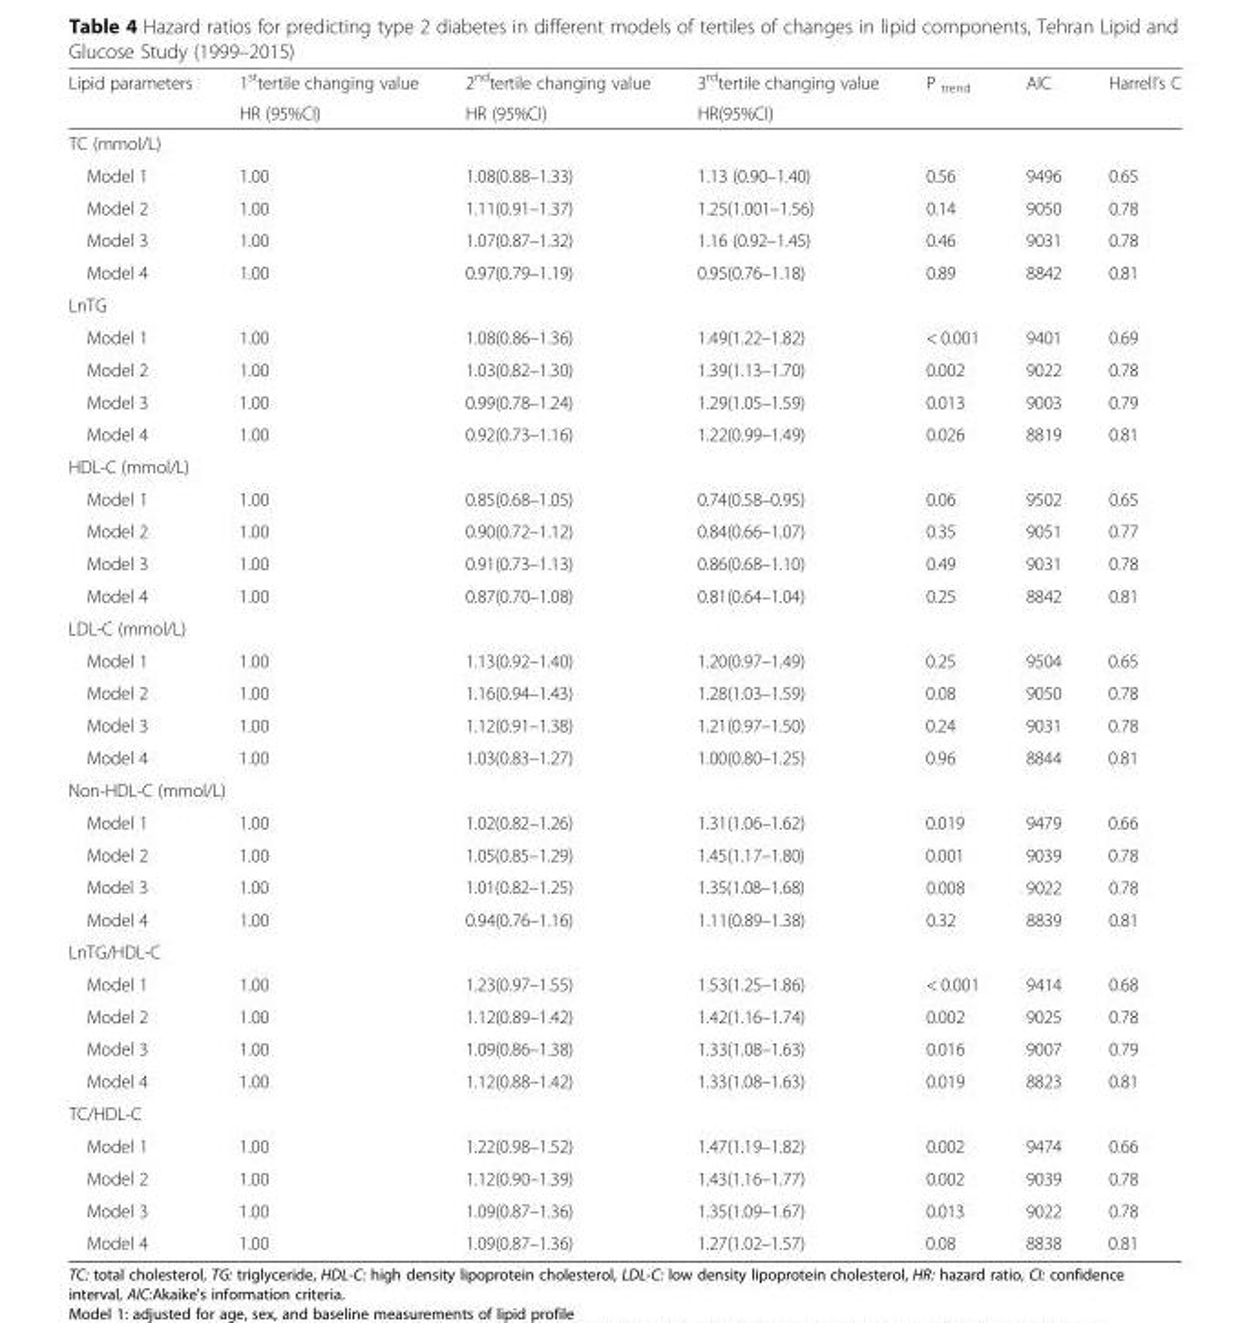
<table><thead><tr><td rowspan="2">Lipid parameters</td><td rowspan="2">1<sup>st</sup>tertile changing value HR (95%CI)</td><td rowspan="2">2<sup>nd</sup>tertile changing value HR (95%CI)</td><td rowspan="2">3<sup>rd</sup>tertile changing value HR(95%CI)</td><td rowspan="2">P <sub>trend</sub></td><td rowspan="2">AIC</td><td rowspan="2">Harrell’s C</td></tr><tr></tr></thead><tbody><tr><td colspan="7">TC (mmol/L)</td></tr><tr><td>Model 1</td><td>1.00</td><td>1.08(0.88–1.33)</td><td>1.13 (0.90–1.40)</td><td>0.56</td><td>9496</td><td>0.65</td></tr><tr><td>Model 2</td><td>1.00</td><td>1.11(0.91–1.37)</td><td>1.25(1.001–1.56)</td><td>0.14</td><td>9050</td><td>0.78</td></tr><tr><td>Model 3</td><td>1.00</td><td>1.07(0.87–1.32)</td><td>1.16 (0.92–1.45)</td><td>0.46</td><td>9031</td><td>0.78</td></tr><tr><td>Model 4</td><td>1.00</td><td>0.97(0.79–1.19)</td><td>0.95(0.76–1.18)</td><td>0.89</td><td>8842</td><td>0.81</td></tr><tr><td colspan="7">LnTG</td></tr><tr><td>Model 1</td><td>1.00</td><td>1.08(0.86–1.36)</td><td>1.49(1.22–1.82)</td><td>&lt; 0.001</td><td>9401</td><td>0.69</td></tr><tr><td>Model 2</td><td>1.00</td><td>1.03(0.82–1.30)</td><td>1.39(1.13–1.70)</td><td>0.002</td><td>9022</td><td>0.78</td></tr><tr><td>Model 3</td><td>1.00</td><td>0.99(0.78–1.24)</td><td>1.29(1.05–1.59)</td><td>0.013</td><td>9003</td><td>0.79</td></tr><tr><td>Model 4</td><td>1.00</td><td>0.92(0.73–1.16)</td><td>1.22(0.99–1.49)</td><td>0.026</td><td>8819</td><td>0.81</td></tr><tr><td colspan="7">HDL-C (mmol/L)</td></tr><tr><td>Model 1</td><td>1.00</td><td>0.85(0.68–1.05)</td><td>0.74(0.58–0.95)</td><td>0.06</td><td>9502</td><td>0.65</td></tr><tr><td>Model 2</td><td>1.00</td><td>0.90(0.72–1.12)</td><td>0.84(0.66–1.07)</td><td>0.35</td><td>9051</td><td>0.77</td></tr><tr><td>Model 3</td><td>1.00</td><td>0.91(0.73–1.13)</td><td>0.86(0.68–1.10)</td><td>0.49</td><td>9031</td><td>0.78</td></tr><tr><td>Model 4</td><td>1.00</td><td>0.87(0.70–1.08)</td><td>0.81(0.64–1.04)</td><td>0.25</td><td>8842</td><td>0.81</td></tr><tr><td colspan="7">LDL-C (mmol/L)</td></tr><tr><td>Model 1</td><td>1.00</td><td>1.13(0.92–1.40)</td><td>1.20(0.97–1.49)</td><td>0.25</td><td>9504</td><td>0.65</td></tr><tr><td>Model 2</td><td>1.00</td><td>1.16(0.94–1.43)</td><td>1.28(1.03–1.59)</td><td>0.08</td><td>9050</td><td>0.78</td></tr><tr><td>Model 3</td><td>1.00</td><td>1.12(0.91–1.38)</td><td>1.21(0.97–1.50)</td><td>0.24</td><td>9031</td><td>0.78</td></tr><tr><td>Model 4</td><td>1.00</td><td>1.03(0.83–1.27)</td><td>1.00(0.80–1.25)</td><td>0.96</td><td>8844</td><td>0.81</td></tr><tr><td colspan="7">Non-HDL-C (mmol/L)</td></tr><tr><td>Model 1</td><td>1.00</td><td>1.02(0.82–1.26)</td><td>1.31(1.06–1.62)</td><td>0.019</td><td>9479</td><td>0.66</td></tr><tr><td>Model 2</td><td>1.00</td><td>1.05(0.85–1.29)</td><td>1.45(1.17–1.80)</td><td>0.001</td><td>9039</td><td>0.78</td></tr><tr><td>Model 3</td><td>1.00</td><td>1.01(0.82–1.25)</td><td>1.35(1.08–1.68)</td><td>0.008</td><td>9022</td><td>0.78</td></tr><tr><td>Model 4</td><td>1.00</td><td>0.94(0.76–1.16)</td><td>1.11(0.89–1.38)</td><td>0.32</td><td>8839</td><td>0.81</td></tr><tr><td colspan="7">LnTG/HDL-C</td></tr><tr><td>Model 1</td><td>1.00</td><td>1.23(0.97–1.55)</td><td>1.53(1.25–1.86)</td><td>&lt; 0.001</td><td>9414</td><td>0.68</td></tr><tr><td>Model 2</td><td>1.00</td><td>1.12(0.89–1.42)</td><td>1.42(1.16–1.74)</td><td>0.002</td><td>9025</td><td>0.78</td></tr><tr><td>Model 3</td><td>1.00</td><td>1.09(0.86–1.38)</td><td>1.33(1.08–1.63)</td><td>0.016</td><td>9007</td><td>0.79</td></tr><tr><td>Model 4</td><td>1.00</td><td>1.12(0.88–1.42)</td><td>1.33(1.08–1.63)</td><td>0.019</td><td>8823</td><td>0.81</td></tr><tr><td colspan="7">TC/HDL-C</td></tr><tr><td>Model 1</td><td>1.00</td><td>1.22(0.98–1.52)</td><td>1.47(1.19–1.82)</td><td>0.002</td><td>9474</td><td>0.66</td></tr><tr><td>Model 2</td><td>1.00</td><td>1.12(0.90–1.39)</td><td>1.43(1.16–1.77)</td><td>0.002</td><td>9039</td><td>0.78</td></tr><tr><td>Model 3</td><td>1.00</td><td>1.09(0.87–1.36)</td><td>1.35(1.09–1.67)</td><td>0.013</td><td>9022</td><td>0.78</td></tr><tr><td>Model 4</td><td>1.00</td><td>1.09(0.87–1.36)</td><td>1.27(1.02–1.57)</td><td>0.08</td><td>8838</td><td>0.81</td></tr></tbody></table>